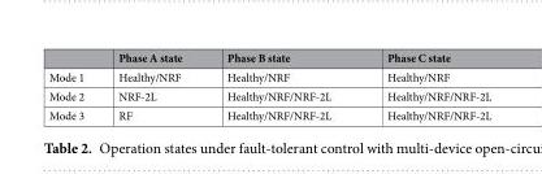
<table><thead><tr><td></td><td>Phase A state</td><td>Phase B state</td><td>Phase C state</td></tr></thead><tbody><tr><td>Mode 1</td><td>Healthy/NRF</td><td>Healthy/NRF</td><td>Healthy/NRF</td></tr><tr><td>Mode 2</td><td>NRF-2L</td><td>Healthy/NRF/NRF-2L</td><td>Healthy/NRF/NRF-2L</td></tr><tr><td>Mode 3</td><td>RF</td><td>Healthy/NRF/NRF-2L</td><td>Healthy/NRF/NRF-2L</td></tr></tbody></table>